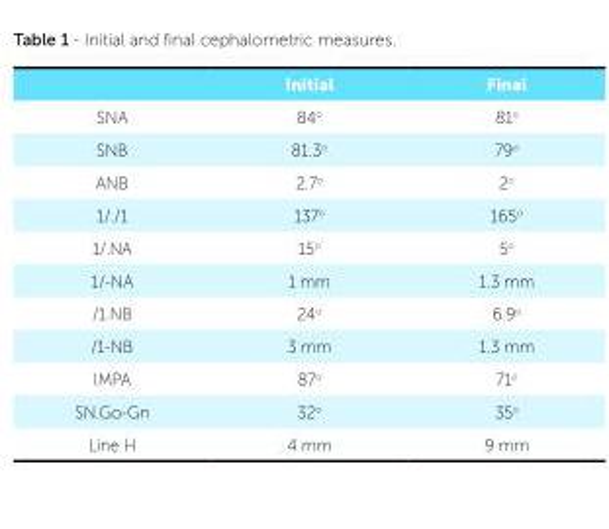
<table><thead><tr><td></td><td>Initial</td><td>Final</td></tr></thead><tbody><tr><td>SNA</td><td>84<sup>o</sup></td><td>81<sup>o</sup></td></tr><tr><td>SNB</td><td>81.3<sup>o</sup></td><td>79<sup>o</sup></td></tr><tr><td>ANB</td><td>2.7<sup>o</sup></td><td>2<sup>o</sup></td></tr><tr><td>1/./1</td><td>137<sup>o</sup></td><td>165<sup>o</sup></td></tr><tr><td>1/.NA</td><td>15<sup>o</sup></td><td>5<sup>o</sup></td></tr><tr><td>1/-NA</td><td>1 mm</td><td>1.3 mm</td></tr><tr><td>/1.NB</td><td>24<sup>o</sup></td><td>6.9<sup>o</sup></td></tr><tr><td>/1-NB</td><td>3 mm</td><td>1.3 mm</td></tr><tr><td>IMPA</td><td>87<sup>o</sup></td><td>71<sup>o</sup></td></tr><tr><td>SN.Go-Gn</td><td>32<sup>o</sup></td><td>35<sup>o</sup></td></tr><tr><td>Line H</td><td>4 mm</td><td>9 mm</td></tr></tbody></table>